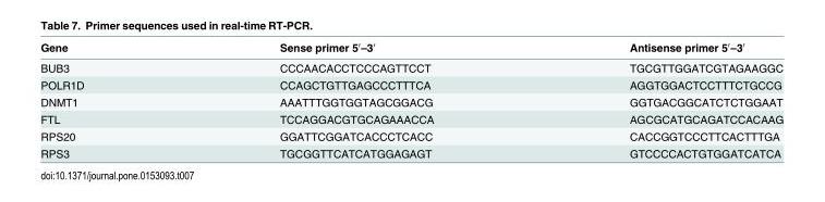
<table><thead><tr><td>Gene</td><td>Sense primer 5′–3′</td><td>Antisense primer 5′–3′</td></tr></thead><tbody><tr><td>BUB3</td><td>CCCAACACCTCCCAGTTCCT</td><td>TGCGTTGGATCGTAGAAGGC</td></tr><tr><td>POLR1D</td><td>CCAGCTGTTGAGCCCTTTCA</td><td>AGGTGGACTCCTTTCTGCCG</td></tr><tr><td>DNMT1</td><td>AAATTTGGTGGTAGCGGACG</td><td>GGTGACGGCATCTCTGGAAT</td></tr><tr><td>FTL</td><td>TCCAGGACGTGCAGAAACCA</td><td>AGCGCATGCAGATCCACAAG</td></tr><tr><td>RPS20</td><td>GGATTCGGATCACCCTCACC</td><td>CACCGGTCCCTTCACTTTGA</td></tr><tr><td>RPS3</td><td>TGCGGTTCATCATGGAGAGT</td><td>GTCCCCACTGTGGATCATCA</td></tr></tbody></table>